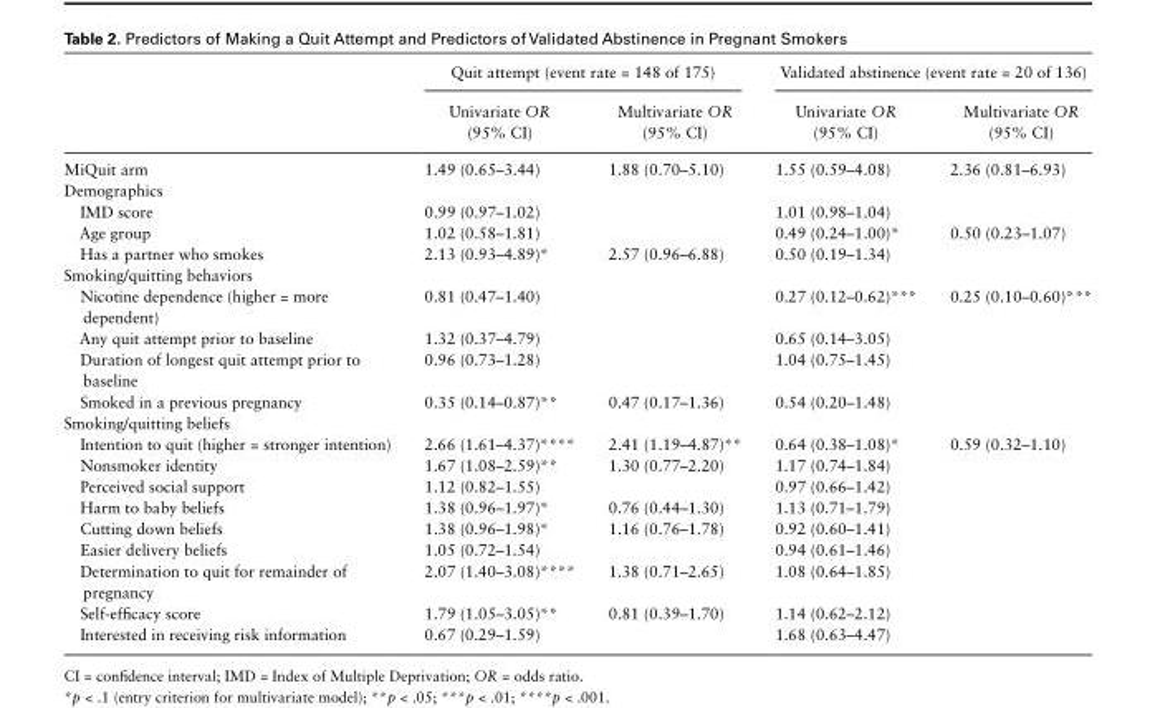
<table><thead><tr><td rowspan="2"></td><td colspan="2">Quit attempt (event rate = 148 of 175)</td><td colspan="2">Validated abstinence (event rate = 20 of 136)</td></tr><tr><td>Univariate OR (95% CI)</td><td>Multivariate OR (95% CI)</td><td>Univariate OR (95% CI)</td><td>Multivariate OR (95% CI)</td></tr></thead><tbody><tr><td>MiQuit arm</td><td>1.49 (0.65–3.44)</td><td>1.88 (0.70–5.10)</td><td>1.55 (0.59–4.08)</td><td>2.36 (0.81–6.93)</td></tr><tr><td colspan="5">Demographics</td></tr><tr><td>IMD score</td><td>0.99 (0.97–1.02)</td><td></td><td>1.01 (0.98–1.04)</td><td></td></tr><tr><td>Age group</td><td>1.02 (0.58–1.81)</td><td></td><td>0.49 (0.24–1.00)*</td><td>0.50 (0.23–1.07)</td></tr><tr><td>Has a partner who smokes</td><td>2.13 (0.93–4.89)*</td><td>2.57 (0.96–6.88)</td><td>0.50 (0.19–1.34)</td><td></td></tr><tr><td colspan="5">Smoking/quitting behaviors</td></tr><tr><td>Nicotine dependence (higher = more dependent)</td><td>0.81 (0.47–1.40)</td><td></td><td>0.27 (0.12–0.62)***</td><td>0.25 (0.10–0.60)***</td></tr><tr><td>Any quit attempt prior to baseline</td><td>1.32 (0.37–4.79)</td><td></td><td>0.65 (0.14–3.05)</td><td></td></tr><tr><td>Duration of longest quit attempt prior to baseline</td><td>0.96 (0.73–1.28)</td><td></td><td>1.04 (0.75–1.45)</td><td></td></tr><tr><td>Smoked in a previous pregnancy</td><td>0.35 (0.14–0.87)**</td><td>0.47 (0.17–1.36)</td><td>0.54 (0.20–1.48)</td><td></td></tr><tr><td colspan="5">Smoking/quitting beliefs</td></tr><tr><td>Intention to quit (higher = stronger intention)</td><td>2.66 (1.61–4.37)****</td><td>2.41 (1.19–4.87)**</td><td>0.64 (0.38–1.08)*</td><td>0.59 (0.32–1.10)</td></tr><tr><td>Nonsmoker identity</td><td>1.67 (1.08–2.59)**</td><td>1.30 (0.77–2.20)</td><td>1.17 (0.74–1.84)</td><td></td></tr><tr><td>Perceived social support</td><td>1.12 (0.82–1.55)</td><td></td><td>0.97 (0.66–1.42)</td><td></td></tr><tr><td>Harm to baby beliefs</td><td>1.38 (0.96–1.97)*</td><td>0.76 (0.44–1.30)</td><td>1.13 (0.71–1.79)</td><td></td></tr><tr><td>Cutting down beliefs</td><td>1.38 (0.96–1.98)*</td><td>1.16 (0.76–1.78)</td><td>0.92 (0.60–1.41)</td><td></td></tr><tr><td>Easier delivery beliefs</td><td>1.05 (0.72–1.54)</td><td></td><td>0.94 (0.61–1.46)</td><td></td></tr><tr><td>Determination to quit for remainder of pregnancy</td><td>2.07 (1.40–3.08)****</td><td>1.38 (0.71–2.65)</td><td>1.08 (0.64–1.85)</td><td></td></tr><tr><td>Self-efficacy score</td><td>1.79 (1.05–3.05)**</td><td>0.81 (0.39–1.70)</td><td>1.14 (0.62–2.12)</td><td></td></tr><tr><td>Interested in receiving risk information</td><td>0.67 (0.29–1.59)</td><td></td><td>1.68 (0.63–4.47)</td><td></td></tr></tbody></table>